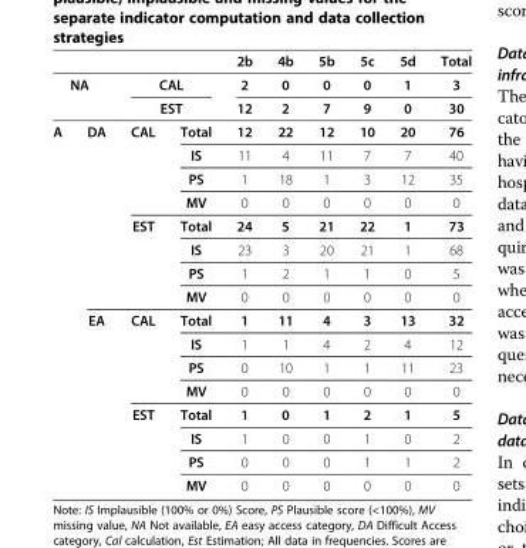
<table><thead><tr><td></td><td></td><td></td><td></td><td>2b</td><td>4b</td><td>5b</td><td>5c</td><td>5d</td><td>Total</td></tr></thead><tbody><tr><td rowspan="2" colspan="2">NA</td><td colspan="2">CAL</td><td>2</td><td>0</td><td>0</td><td>0</td><td>1</td><td>3</td></tr><tr><td colspan="2">EST</td><td>12</td><td>2</td><td>7</td><td>9</td><td>0</td><td>30</td></tr><tr><td rowspan="16">A</td><td rowspan="8">DA</td><td rowspan="4">CAL</td><td>Total</td><td>12</td><td>22</td><td>12</td><td>10</td><td>20</td><td>76</td></tr><tr><td>IS</td><td>11</td><td>4</td><td>11</td><td>7</td><td>7</td><td>40</td></tr><tr><td>PS</td><td>1</td><td>18</td><td>1</td><td>3</td><td>12</td><td>35</td></tr><tr><td>MV</td><td>0</td><td>0</td><td>0</td><td>0</td><td>0</td><td>0</td></tr><tr><td rowspan="4">EST</td><td>Total</td><td>24</td><td>5</td><td>21</td><td>22</td><td>1</td><td>73</td></tr><tr><td>IS</td><td>23</td><td>3</td><td>20</td><td>21</td><td>1</td><td>68</td></tr><tr><td>PS</td><td>1</td><td>2</td><td>1</td><td>1</td><td>0</td><td>5</td></tr><tr><td>MV</td><td>0</td><td>0</td><td>0</td><td>0</td><td>0</td><td>0</td></tr><tr><td rowspan="8">EA</td><td rowspan="4">CAL</td><td>Total</td><td>1</td><td>11</td><td>4</td><td>3</td><td>13</td><td>32</td></tr><tr><td>IS</td><td>1</td><td>1</td><td>4</td><td>2</td><td>4</td><td>12</td></tr><tr><td>PS</td><td>0</td><td>10</td><td>1</td><td>1</td><td>11</td><td>23</td></tr><tr><td>MV</td><td>0</td><td>0</td><td>0</td><td>0</td><td>0</td><td>0</td></tr><tr><td rowspan="4">EST</td><td>Total</td><td>1</td><td>0</td><td>1</td><td>2</td><td>1</td><td>5</td></tr><tr><td>IS</td><td>1</td><td>0</td><td>0</td><td>1</td><td>0</td><td>2</td></tr><tr><td>PS</td><td>0</td><td>0</td><td>0</td><td>1</td><td>1</td><td>2</td></tr><tr><td>MV</td><td>0</td><td>0</td><td>0</td><td>0</td><td>0</td><td>0</td></tr></tbody></table>